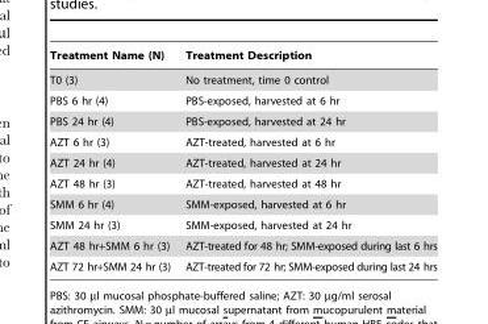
<table><thead><tr><td>Treatment Name (N)</td><td>Treatment Description</td></tr></thead><tbody><tr><td>T0 (3)</td><td>No treatment, time 0 control</td></tr><tr><td>PBS 6 hr (4)</td><td>PBS-exposed, harvested at 6 hr</td></tr><tr><td>PBS 24 hr (4)</td><td>PBS-exposed, harvested at 24 hr</td></tr><tr><td>AZT 6 hr (3)</td><td>AZT-treated, harvested at 6 hr</td></tr><tr><td>AZT 24 hr (4)</td><td>AZT-treated, harvested at 24 hr</td></tr><tr><td>AZT 48 hr (3)</td><td>AZT-treated, harvested at 48 hr</td></tr><tr><td>SMM 6 hr (4)</td><td>SMM-exposed, harvested at 6 hr</td></tr><tr><td>SMM 24 hr (3)</td><td>SMM-exposed, harvested at 24 hr</td></tr><tr><td>AZT 48 hr+SMM 6 hr (3)</td><td>AZT-treated for 48 hr; SMM-exposed during last 6 hrs</td></tr><tr><td>AZT 72 hr+SMM 24 hr (3)</td><td>AZT-treated for 72 hr; SMM-exposed during last 24 hrs</td></tr></tbody></table>